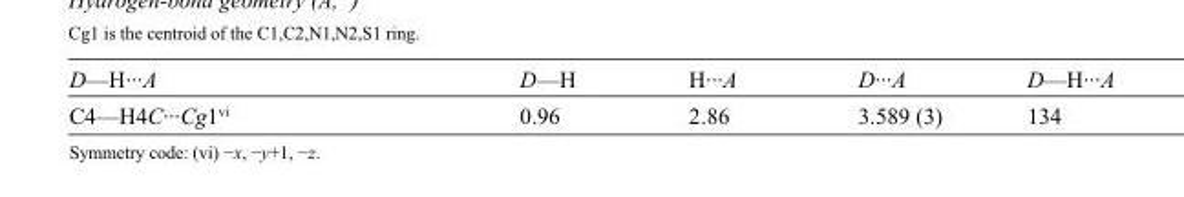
<table><tbody><tr><td>D—H···A</td><td>D—H</td><td>H···A</td><td>D···A</td><td>D—H···A</td></tr><tr><td>C4—H4C···Cg1<sup>vi</sup></td><td>0.96</td><td>2.86</td><td>3.589 (3)</td><td>134</td></tr></tbody></table>